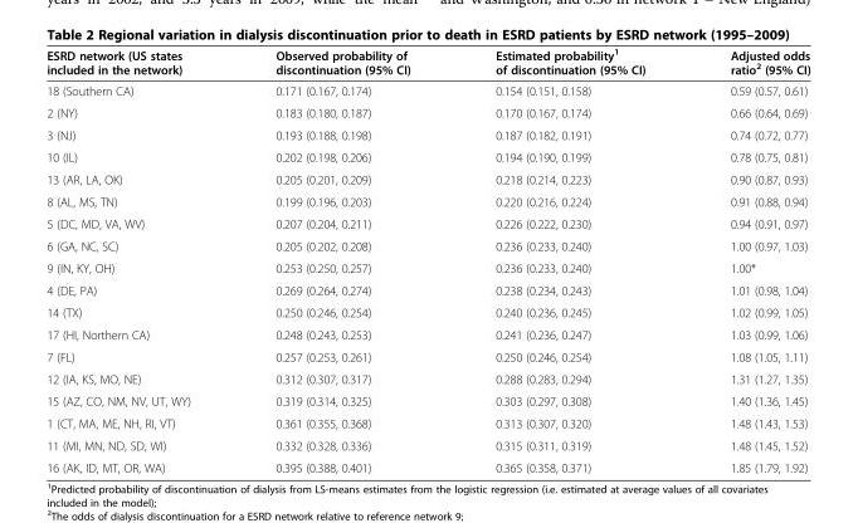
<table><thead><tr><td>ESRD network (US states included in the network)</td><td>Observed probability of discontinuation (95% CI)</td><td>Estimated probability<sup>1</sup> of discontinuation (95% CI)</td><td>Adjusted odds ratio<sup>2</sup> (95% CI)</td></tr></thead><tbody><tr><td>18 (Southern CA)</td><td>0.171 (0.167, 0.174)</td><td>0.154 (0.151, 0.158)</td><td>0.59 (0.57, 0.61)</td></tr><tr><td>2 (NY)</td><td>0.183 (0.180, 0.187)</td><td>0.170 (0.167, 0.174)</td><td>0.66 (0.64, 0.69)</td></tr><tr><td>3 (NJ)</td><td>0.193 (0.188, 0.198)</td><td>0.187 (0.182, 0.191)</td><td>0.74 (0.72, 0.77)</td></tr><tr><td>10 (IL)</td><td>0.202 (0.198, 0.206)</td><td>0.194 (0.190, 0.199)</td><td>0.78 (0.75, 0.81)</td></tr><tr><td>13 (AR, LA, OK)</td><td>0.205 (0.201, 0.209)</td><td>0.218 (0.214, 0.223)</td><td>0.90 (0.87, 0.93)</td></tr><tr><td>8 (AL, MS, TN)</td><td>0.199 (0.196, 0.203)</td><td>0.220 (0.216, 0.224)</td><td>0.91 (0.88, 0.94)</td></tr><tr><td>5 (DC, MD, VA, WV)</td><td>0.207 (0.204, 0.211)</td><td>0.226 (0.222, 0.230)</td><td>0.94 (0.91, 0.97)</td></tr><tr><td>6 (GA, NC, SC)</td><td>0.205 (0.202, 0.208)</td><td>0.236 (0.233, 0.240)</td><td>1.00 (0.97, 1.03)</td></tr><tr><td>9 (IN, KY, OH)</td><td>0.253 (0.250, 0.257)</td><td>0.236 (0.233, 0.240)</td><td>1.00*</td></tr><tr><td>4 (DE, PA)</td><td>0.269 (0.264, 0.274)</td><td>0.238 (0.234, 0.243)</td><td>1.01 (0.98, 1.04)</td></tr><tr><td>14 (TX)</td><td>0.250 (0.246, 0.254)</td><td>0.240 (0.236, 0.245)</td><td>1.02 (0.99, 1.05)</td></tr><tr><td>17 (HI, Northern CA)</td><td>0.248 (0.243, 0.253)</td><td>0.241 (0.236, 0.247)</td><td>1.03 (0.99, 1.06)</td></tr><tr><td>7 (FL)</td><td>0.257 (0.253, 0.261)</td><td>0.250 (0.246, 0.254)</td><td>1.08 (1.05, 1.11)</td></tr><tr><td>12 (IA, KS, MO, NE)</td><td>0.312 (0.307, 0.317)</td><td>0.288 (0.283, 0.294)</td><td>1.31 (1.27, 1.35)</td></tr><tr><td>15 (AZ, CO, NM, NV, UT, WY)</td><td>0.319 (0.314, 0.325)</td><td>0.303 (0.297, 0.308)</td><td>1.40 (1.36, 1.45)</td></tr><tr><td>1 (CT, MA, ME, NH, RI, VT)</td><td>0.361 (0.355, 0.368)</td><td>0.313 (0.307, 0.320)</td><td>1.48 (1.43, 1.53)</td></tr><tr><td>11 (MI, MN, ND, SD, WI)</td><td>0.332 (0.328, 0.336)</td><td>0.315 (0.311, 0.319)</td><td>1.48 (1.45, 1.52)</td></tr><tr><td>16 (AK, ID, MT, OR, WA)</td><td>0.395 (0.388, 0.401)</td><td>0.365 (0.358, 0.371)</td><td>1.85 (1.79, 1.92)</td></tr></tbody></table>